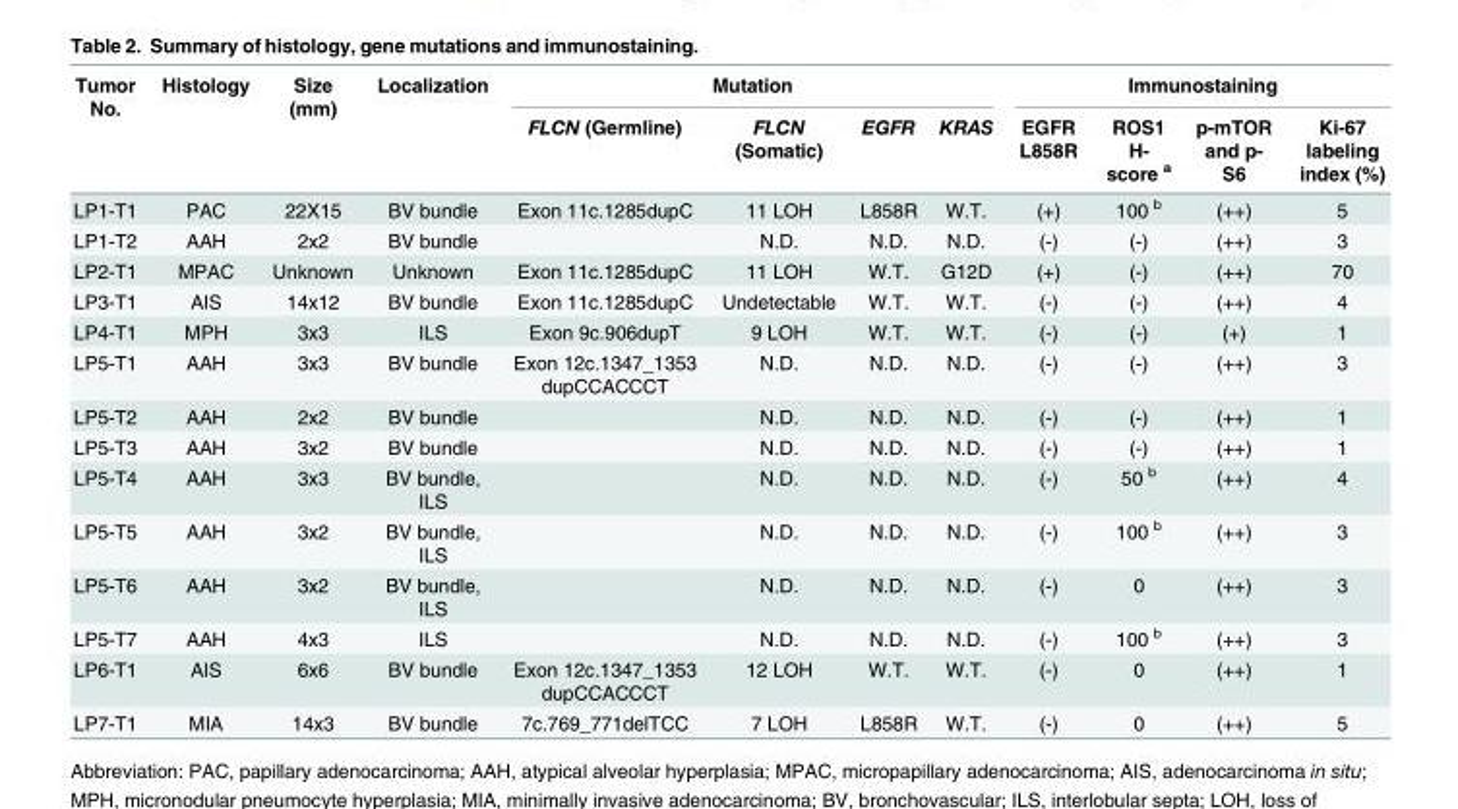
<table><thead><tr><td rowspan="2">Tumor No.</td><td rowspan="2">Histology</td><td rowspan="2">Size (mm)</td><td rowspan="2">Localization</td><td colspan="4">Mutation</td><td colspan="4">Immunostaining</td></tr><tr><td>FLCN (Germline)</td><td>FLCN (Somatic)</td><td>EGFR</td><td>KRAS</td><td>EGFR L858R</td><td>ROS1 H- score <sup>a</sup></td><td>p-mTOR and p- S6</td><td>Ki-67 labeling index (%)</td></tr></thead><tbody><tr><td>LP1-T1</td><td>PAC</td><td>22X15</td><td>BV bundle</td><td>Exon 11c.1285dupC</td><td>11 LOH</td><td>L858R</td><td>W.T.</td><td>(+)</td><td>100 <sup>b</sup></td><td>(++)</td><td>5</td></tr><tr><td>LP1-T2</td><td>AAH</td><td>2x2</td><td>BV bundle</td><td></td><td>N.D.</td><td>N.D.</td><td>N.D.</td><td>(-)</td><td>(-)</td><td>(++)</td><td>3</td></tr><tr><td>LP2-T1</td><td>MPAC</td><td>Unknown</td><td>Unknown</td><td>Exon 11c.1285dupC</td><td>11 LOH</td><td>W.T.</td><td>G12D</td><td>(+)</td><td>(-)</td><td>(++)</td><td>70</td></tr><tr><td>LP3-T1</td><td>AIS</td><td>14x12</td><td>BV bundle</td><td>Exon 11c.1285dupC</td><td>Undetectable</td><td>W.T.</td><td>W.T.</td><td>(-)</td><td>(-)</td><td>(++)</td><td>4</td></tr><tr><td>LP4-T1</td><td>MPH</td><td>3x3</td><td>ILS</td><td>Exon 9c.906dupT</td><td>9 LOH</td><td>W.T.</td><td>W.T.</td><td>(-)</td><td>(-)</td><td>(+)</td><td>1</td></tr><tr><td>LP5-T1</td><td>AAH</td><td>3x3</td><td>BV bundle</td><td>Exon 12c.1347_1353 dupCCACCCT</td><td>N.D.</td><td>N.D.</td><td>N.D.</td><td>(-)</td><td>(-)</td><td>(++)</td><td>3</td></tr><tr><td>LP5-T2</td><td>AAH</td><td>2x2</td><td>BV bundle</td><td></td><td>N.D.</td><td>N.D.</td><td>N.D.</td><td>(-)</td><td>(-)</td><td>(++)</td><td>1</td></tr><tr><td>LP5-T3</td><td>AAH</td><td>3x2</td><td>BV bundle</td><td></td><td>N.D.</td><td>N.D.</td><td>N.D.</td><td>(-)</td><td>(-)</td><td>(++)</td><td>1</td></tr><tr><td>LP5-T4</td><td>AAH</td><td>3x3</td><td>BV bundle, ILS</td><td></td><td>N.D.</td><td>N.D.</td><td>N.D.</td><td>(-)</td><td>50 <sup>b</sup></td><td>(++)</td><td>4</td></tr><tr><td>LP5-T5</td><td>AAH</td><td>3x2</td><td>BV bundle, ILS</td><td></td><td>N.D.</td><td>N.D.</td><td>N.D.</td><td>(-)</td><td>100 <sup>b</sup></td><td>(++)</td><td>3</td></tr><tr><td>LP5-T6</td><td>AAH</td><td>3x2</td><td>BV bundle, ILS</td><td></td><td>N.D.</td><td>N.D.</td><td>N.D.</td><td>(-)</td><td>0</td><td>(++)</td><td>3</td></tr><tr><td>LP5-T7</td><td>AAH</td><td>4x3</td><td>ILS</td><td></td><td>N.D.</td><td>N.D.</td><td>N.D.</td><td>(-)</td><td>100 <sup>b</sup></td><td>(++)</td><td>3</td></tr><tr><td>LP6-T1</td><td>AIS</td><td>6x6</td><td>BV bundle</td><td>Exon 12c.1347_1353 dupCCACCCT</td><td>12 LOH</td><td>W.T.</td><td>W.T.</td><td>(-)</td><td>0</td><td>(++)</td><td>1</td></tr><tr><td>LP7-T1</td><td>MIA</td><td>14x3</td><td>BV bundle</td><td>7c.769_771delTCC</td><td>7 LOH</td><td>L858R</td><td>W.T.</td><td>(-)</td><td>0</td><td>(++)</td><td>5</td></tr></tbody></table>